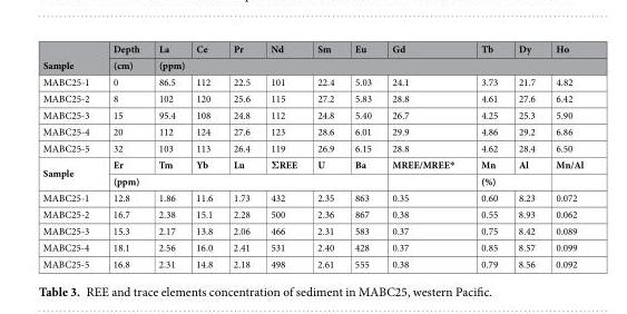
<table><thead><tr><td rowspan="2">Sample</td><td rowspan="2">Depth (cm)</td><td>La</td><td>Ce</td><td>Pr</td><td>Nd</td><td>Sm</td><td>Eu</td><td>Gd</td><td>Tb</td><td>Dy</td><td>Ho</td></tr><tr><td colspan="10">(ppm)</td></tr></thead><tbody><tr><td>MABC25-1</td><td>0</td><td>86.5</td><td>112</td><td>22.5</td><td>101</td><td>22.4</td><td>5.03</td><td>24.1</td><td>3.73</td><td>21.7</td><td>4.82</td></tr><tr><td>MABC25-2</td><td>8</td><td>102</td><td>120</td><td>25.6</td><td>115</td><td>27.2</td><td>5.83</td><td>28.8</td><td>4.61</td><td>27.6</td><td>6.42</td></tr><tr><td>MABC25-3</td><td>15</td><td>95.4</td><td>108</td><td>24.8</td><td>112</td><td>24.8</td><td>5.40</td><td>26.7</td><td>4.25</td><td>25.3</td><td>5.90</td></tr><tr><td>MABC25-4</td><td>20</td><td>112</td><td>124</td><td>27.6</td><td>123</td><td>28.6</td><td>6.01</td><td>29.9</td><td>4.86</td><td>29.2</td><td>6.86</td></tr><tr><td>MABC25-5</td><td>32</td><td>103</td><td>113</td><td>26.4</td><td>119</td><td>26.9</td><td>6.15</td><td>28.8</td><td>4.62</td><td>28.4</td><td>6.50</td></tr><tr><td rowspan="2">Sample</td><td>Er</td><td>Tm</td><td>Yb</td><td>Lu</td><td>ΣREE</td><td>U</td><td>Ba</td><td>MREE/MREE*</td><td>Mn</td><td>Al</td><td>Mn/Al</td></tr><tr><td colspan="7">(ppm)</td><td></td><td colspan="2">(%)</td><td></td></tr><tr><td>MABC25-1</td><td>12.8</td><td>1.86</td><td>11.6</td><td>1.73</td><td>432</td><td>2.35</td><td>863</td><td>0.35</td><td>0.60</td><td>8.23</td><td>0.072</td></tr><tr><td>MABC25-2</td><td>16.7</td><td>2.38</td><td>15.1</td><td>2.28</td><td>500</td><td>2.36</td><td>867</td><td>0.38</td><td>0.55</td><td>8.93</td><td>0.062</td></tr><tr><td>MABC25-3</td><td>15.3</td><td>2.17</td><td>13.8</td><td>2.06</td><td>466</td><td>2.31</td><td>583</td><td>0.37</td><td>0.75</td><td>8.42</td><td>0.089</td></tr><tr><td>MABC25-4</td><td>18.1</td><td>2.56</td><td>16.0</td><td>2.41</td><td>531</td><td>2.40</td><td>428</td><td>0.37</td><td>0.85</td><td>8.57</td><td>0.099</td></tr><tr><td>MABC25-5</td><td>16.8</td><td>2.31</td><td>14.8</td><td>2.18</td><td>498</td><td>2.61</td><td>555</td><td>0.38</td><td>0.79</td><td>8.56</td><td>0.092</td></tr></tbody></table>